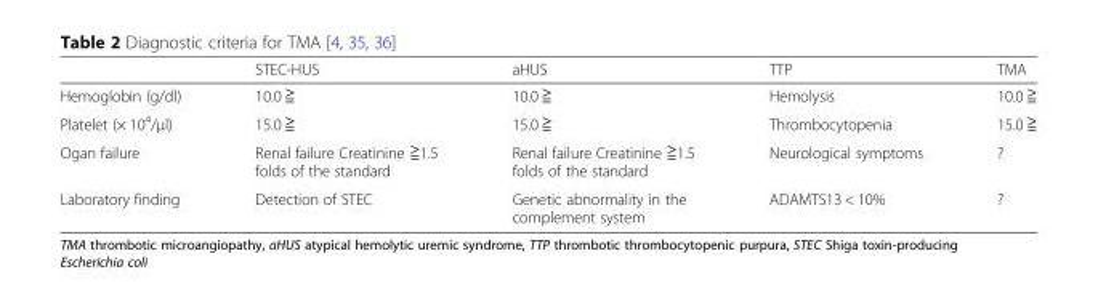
<table><thead><tr><td></td><td>STEC-HUS</td><td>aHUS</td><td>TTP</td><td>TMA</td></tr></thead><tbody><tr><td>Hemoglobin (g/dl)</td><td>10.0 ≧</td><td>10.0 ≧</td><td>Hemolysis</td><td>10.0 ≧</td></tr><tr><td>Platelet (× 10<sup>4</sup>/μl)</td><td>15.0 ≧</td><td>15.0 ≧</td><td>Thrombocytopenia</td><td>15.0 ≧</td></tr><tr><td>Ogan failure</td><td>Renal failure Creatinine ≧1.5 folds of the standard</td><td>Renal failure Creatinine ≧1.5 folds of the standard</td><td>Neurological symptoms</td><td>?</td></tr><tr><td>Laboratory finding</td><td>Detection of STEC</td><td>Genetic abnormality in the complement system</td><td>ADAMTS13 &lt; 10%</td><td>?</td></tr></tbody></table>